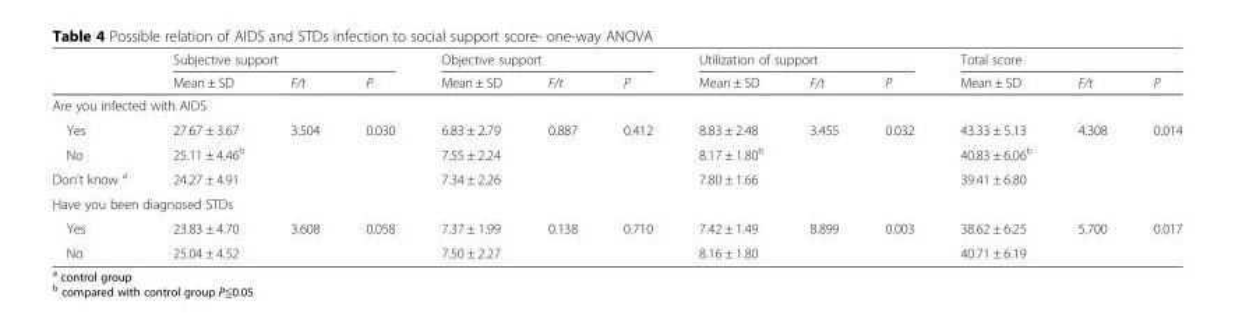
<table><thead><tr><td rowspan="2"></td><td colspan="3">Subjective support</td><td colspan="3">Objective support</td><td colspan="3">Utilization of support</td><td colspan="3">Total score</td></tr><tr><td>Mean ± SD</td><td>F/t</td><td>P</td><td>Mean ± SD</td><td>F/t</td><td>P</td><td>Mean ± SD</td><td>F/t</td><td>P</td><td>Mean ± SD</td><td>F/t</td><td>P</td></tr></thead><tbody><tr><td colspan="13">Are you infected with AIDS</td></tr><tr><td>Yes</td><td>27.67 ± 3.67</td><td>3.504</td><td>0.030</td><td>6.83 ± 2.79</td><td>0.887</td><td>0.412</td><td>8.83 ± 2.48</td><td>3.455</td><td>0.032</td><td>43.33 ± 5.13</td><td>4.308</td><td>0.014</td></tr><tr><td>No</td><td>25.11 ± 4.46<sup>b</sup></td><td></td><td></td><td>7.55 ± 2.24</td><td></td><td></td><td>8.17 ± 1.80<sup>b</sup></td><td></td><td></td><td>40.83 ± 6.06<sup>b</sup></td><td></td><td></td></tr><tr><td>Don’t know <sup>a</sup></td><td>24.27 ± 4.91</td><td></td><td></td><td>7.34 ± 2.26</td><td></td><td></td><td>7.80 ± 1.66</td><td></td><td></td><td>39.41 ± 6.80</td><td></td><td></td></tr><tr><td colspan="13">Have you been diagnosed STDs</td></tr><tr><td>Yes</td><td>23.83 ± 4.70</td><td>3.608</td><td>0.058</td><td>7.37 ± 1.99</td><td>0.138</td><td>0.710</td><td>7.42 ± 1.49</td><td>8.899</td><td>0.003</td><td>38.62 ± 6.25</td><td>5.700</td><td>0.017</td></tr><tr><td>No</td><td>25.04 ± 4.52</td><td></td><td></td><td>7.50 ± 2.27</td><td></td><td></td><td>8.16 ± 1.80</td><td></td><td></td><td>40.71 ± 6.19</td><td></td><td></td></tr></tbody></table>